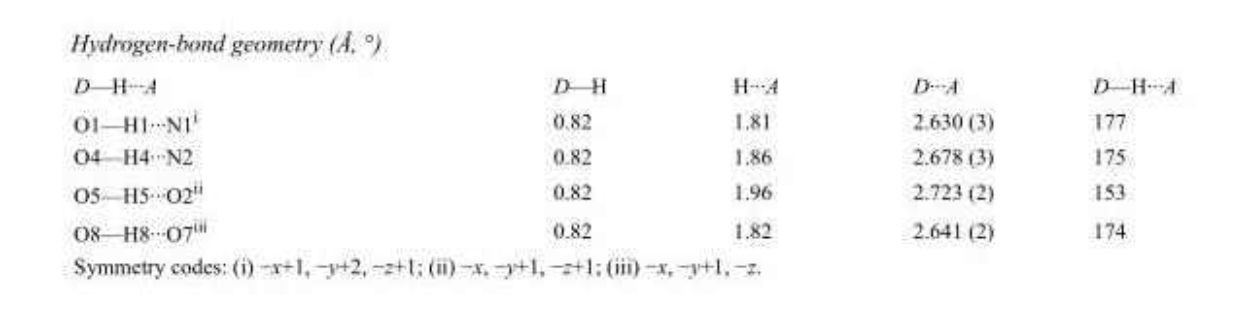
<table><tbody><tr><td>D—H···A</td><td>D—H</td><td>H···A</td><td>D···A</td><td>D—H···A</td></tr><tr><td>O1—H1···N1<sup>i</sup></td><td>0.82</td><td>1.81</td><td>2.630 (3)</td><td>177</td></tr><tr><td>O4—H4···N2</td><td>0.82</td><td>1.86</td><td>2.678 (3)</td><td>175</td></tr><tr><td>O5—H5···O2<sup>ii</sup></td><td>0.82</td><td>1.96</td><td>2.723 (2)</td><td>153</td></tr><tr><td>O8—H8···O7<sup>iii</sup></td><td>0.82</td><td>1.82</td><td>2.641 (2)</td><td>174</td></tr></tbody></table>